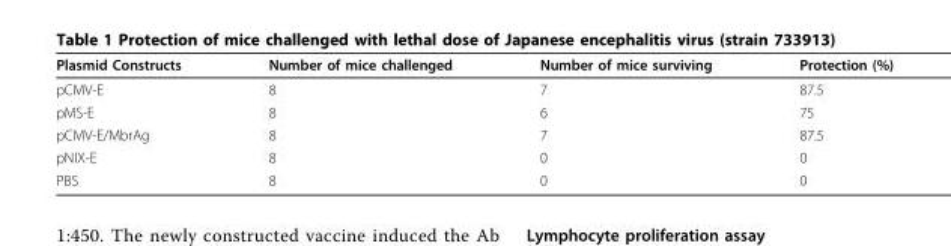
<table><thead><tr><td>Plasmid Constructs</td><td>Number of mice challenged</td><td>Number of mice surviving</td><td>Protection (%)</td></tr></thead><tbody><tr><td>pCMV-E</td><td>8</td><td>7</td><td>87.5</td></tr><tr><td>pMS-E</td><td>8</td><td>6</td><td>75</td></tr><tr><td>pCMV-E/MbrAg</td><td>8</td><td>7</td><td>87.5</td></tr><tr><td>pNIX-E</td><td>8</td><td>0</td><td>0</td></tr><tr><td>PBS</td><td>8</td><td>0</td><td>0</td></tr></tbody></table>